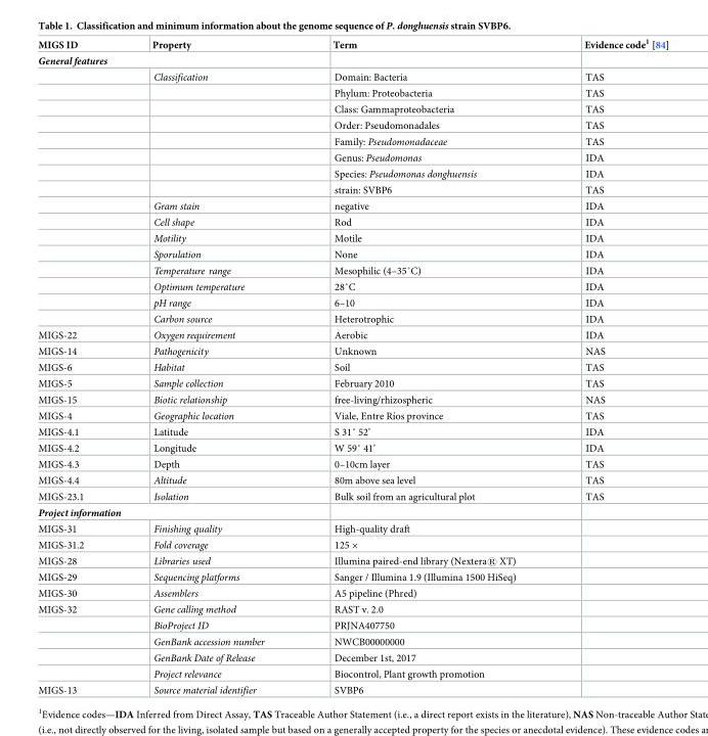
<table><thead><tr><td>MIGS ID</td><td>Property</td><td>Term</td><td>Evidence code<sup>1</sup> [84]</td></tr></thead><tbody><tr><td colspan="4">General features</td></tr><tr><td></td><td>Classification</td><td>Domain: Bacteria</td><td>TAS</td></tr><tr><td></td><td></td><td>Phylum: Proteobacteria</td><td>TAS</td></tr><tr><td></td><td></td><td>Class: Gammaproteobacteria</td><td>TAS</td></tr><tr><td></td><td></td><td>Order: Pseudomonadales</td><td>TAS</td></tr><tr><td></td><td></td><td>Family: Pseudomonadaceae</td><td>TAS</td></tr><tr><td></td><td></td><td>Genus: Pseudomonas</td><td>IDA</td></tr><tr><td></td><td></td><td>Species: Pseudomonas donghuensis</td><td>IDA</td></tr><tr><td></td><td></td><td>strain: SVBP6</td><td>TAS</td></tr><tr><td></td><td>Gram stain</td><td>negative</td><td>IDA</td></tr><tr><td></td><td>Cell shape</td><td>Rod</td><td>IDA</td></tr><tr><td></td><td>Motility</td><td>Motile</td><td>IDA</td></tr><tr><td></td><td>Sporulation</td><td>None</td><td>IDA</td></tr><tr><td></td><td>Temperature range</td><td>Mesophilic (4–35˚C)</td><td>IDA</td></tr><tr><td></td><td>Optimum temperature</td><td>28˚C</td><td>IDA</td></tr><tr><td></td><td>pH range</td><td>6–10</td><td>IDA</td></tr><tr><td></td><td>Carbon source</td><td>Heterotrophic</td><td>IDA</td></tr><tr><td>MIGS-22</td><td>Oxygen requirement</td><td>Aerobic</td><td>IDA</td></tr><tr><td>MIGS-14</td><td>Pathogenicity</td><td>Unknown</td><td>NAS</td></tr><tr><td>MIGS-6</td><td>Habitat</td><td>Soil</td><td>TAS</td></tr><tr><td>MIGS-5</td><td>Sample collection</td><td>February 2010</td><td>TAS</td></tr><tr><td>MIGS-15</td><td>Biotic relationship</td><td>free-living/rhizospheric</td><td>NAS</td></tr><tr><td>MIGS-4</td><td>Geographic location</td><td>Viale, Entre Rı´os province</td><td>TAS</td></tr><tr><td>MIGS-4.1</td><td>Latitude</td><td>S 31˚ 52’</td><td>IDA</td></tr><tr><td>MIGS-4.2</td><td>Longitude</td><td>W 59˚ 41’</td><td>IDA</td></tr><tr><td>MIGS-4.3</td><td>Depth</td><td>0–10cm layer</td><td>TAS</td></tr><tr><td>MIGS-4.4</td><td>Altitude</td><td>80m above sea level</td><td>TAS</td></tr><tr><td>MIGS-23.1</td><td>Isolation</td><td>Bulk soil from an agricultural plot</td><td>TAS</td></tr><tr><td colspan="4">Project information</td></tr><tr><td>MIGS-31</td><td>Finishing quality</td><td>High-quality draft</td><td></td></tr><tr><td>MIGS-31.2</td><td>Fold coverage</td><td>125 ×</td><td></td></tr><tr><td>MIGS-28</td><td>Libraries used</td><td>Illumina paired-end library (Nextera® XT)</td><td></td></tr><tr><td>MIGS-29</td><td>Sequencing platforms</td><td>Sanger / Illumina 1.9 (Illumina 1500 HiSeq)</td><td></td></tr><tr><td>MIGS-30</td><td>Assemblers</td><td>A5 pipeline (Phred)</td><td></td></tr><tr><td rowspan="5">MIGS-32</td><td>Gene calling method</td><td>RAST v. 2.0</td><td></td></tr><tr><td>BioProject ID</td><td>PRJNA407750</td><td></td></tr><tr><td>GenBank accession number</td><td>NWCB00000000</td><td></td></tr><tr><td>GenBank Date of Release</td><td>December 1st, 2017</td><td></td></tr><tr><td>Project relevance</td><td>Biocontrol, Plant growth promotion</td><td></td></tr><tr><td>MIGS-13</td><td>Source material identifier</td><td>SVBP6</td><td></td></tr></tbody></table>